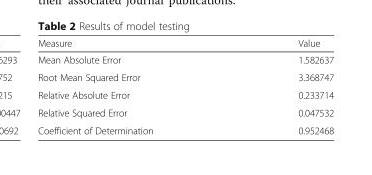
<table><thead><tr><td>Measure</td><td>Value</td></tr></thead><tbody><tr><td>Mean Absolute Error</td><td>1.582637</td></tr><tr><td>Root Mean Squared Error</td><td>3.368747</td></tr><tr><td>Relative Absolute Error</td><td>0.233714</td></tr><tr><td>Relative Squared Error</td><td>0.047532</td></tr><tr><td>Coefficient of Determination</td><td>0.952468</td></tr></tbody></table>